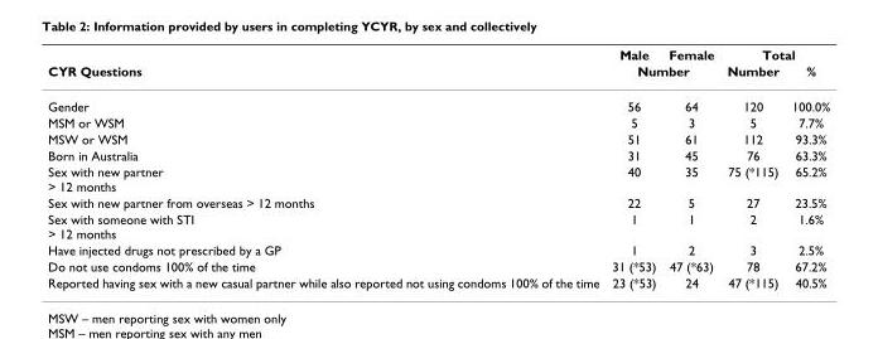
<table><thead><tr><td rowspan="2">CYR Questions</td><td>Male</td><td>Female</td><td colspan="2">Total</td></tr><tr><td colspan="2">Number</td><td>Number</td><td>%</td></tr></thead><tbody><tr><td>Gender</td><td>56</td><td>64</td><td>120</td><td>100.0%</td></tr><tr><td>MSM or WSM</td><td>5</td><td>3</td><td>5</td><td>7.7%</td></tr><tr><td>MSW or WSM</td><td>51</td><td>61</td><td>112</td><td>93.3%</td></tr><tr><td>Born in Australia</td><td>31</td><td>45</td><td>76</td><td>63.3%</td></tr><tr><td>Sex with new partner &gt; 12 months</td><td>40</td><td>35</td><td>75 (*115)</td><td>65.2%</td></tr><tr><td>Sex with new partner from overseas &gt; 12 months</td><td>22</td><td>5</td><td>27</td><td>23.5%</td></tr><tr><td>Sex with someone with STI &gt; 12 months</td><td>1</td><td>1</td><td>2</td><td>1.6%</td></tr><tr><td>Have injected drugs not prescribed by a GP</td><td>1</td><td>2</td><td>3</td><td>2.5%</td></tr><tr><td>Do not use condoms 100% of the time</td><td>31 (*53)</td><td>47 (*63)</td><td>78</td><td>67.2%</td></tr><tr><td>Reported having sex with a new casual partner while also reported not using condoms 100% of the time</td><td>23 (*53)</td><td>24</td><td>47 (*115)</td><td>40.5%</td></tr></tbody></table>